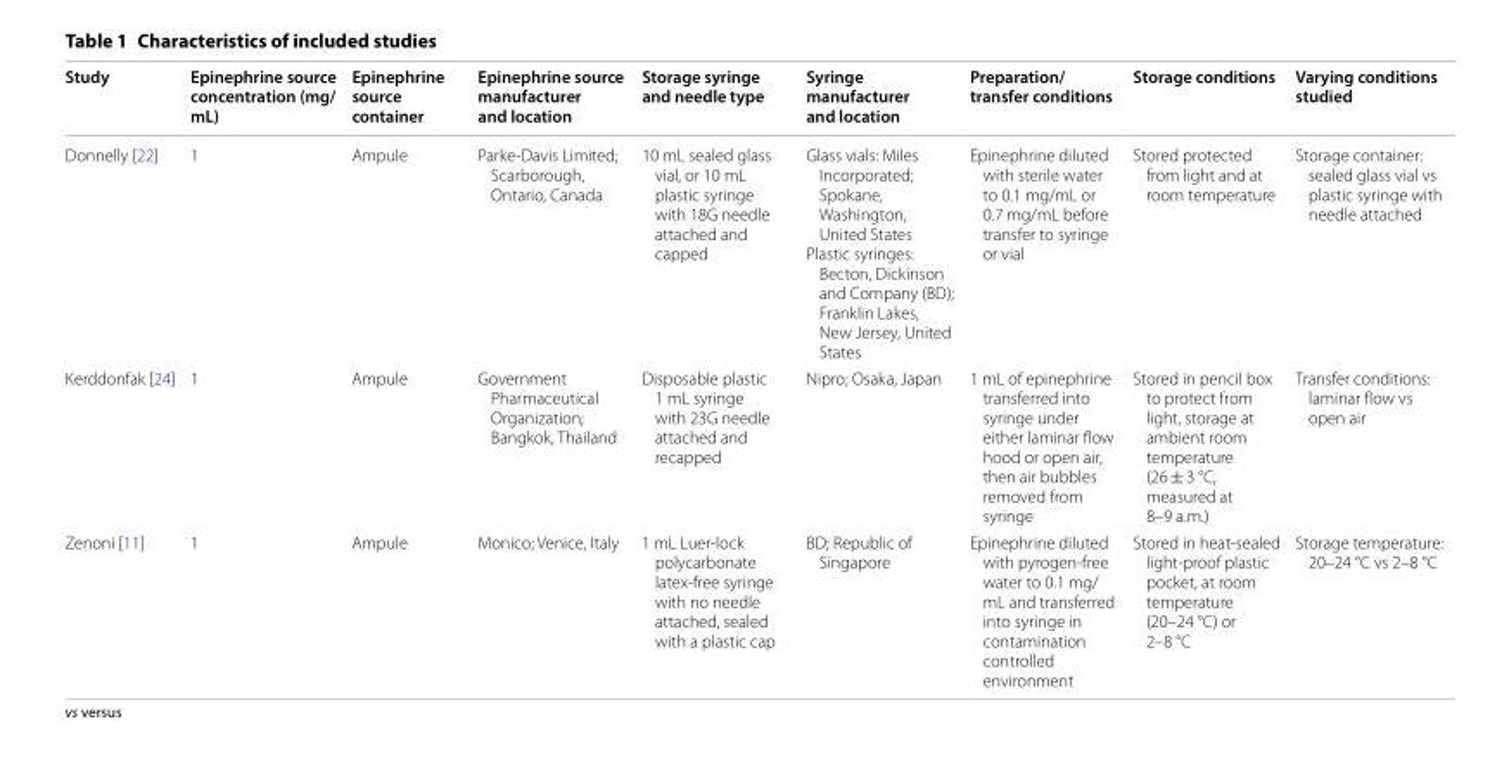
<table><thead><tr><td>Study</td><td>Epinephrine source concentration (mg/ mL)</td><td>Epinephrine source container</td><td>Epinephrine source manufacturer and location</td><td>Storage syringe and needle type</td><td>Syringe manufacturer and location</td><td>Preparation/ transfer conditions</td><td>Storage conditions</td><td>Varying conditions studied</td></tr></thead><tbody><tr><td>Donnelly [22]</td><td>1</td><td>Ampule</td><td>Parke-Davis Limited; Scarborough, Ontario, Canada</td><td>10 mL sealed glass vial, or 10 mL plastic syringe with 18G needle attached and capped</td><td>Glass vials: Miles Incorporated; Spokane, Washington, United States Plastic syringes: Becton, Dickinson and Company (BD); Franklin Lakes, New Jersey, United States</td><td>Epinephrine diluted with sterile water to 0.1 mg/mL or 0.7 mg/mL before transfer to syringe or vial</td><td>Stored protected from light and at room temperature</td><td>Storage container: sealed glass vial vs plastic syringe with needle attached</td></tr><tr><td>Kerddonfak [24]</td><td>1</td><td>Ampule</td><td>Government Pharmaceutical Organization; Bangkok, Thailand</td><td>Disposable plastic 1 mL syringe with 23G needle attached and recapped</td><td>Nipro; Osaka, Japan</td><td>1 mL of epinephrine transferred into syringe under either laminar flow hood or open air, then air bubbles removed from syringe</td><td>Stored in pencil box to protect from light, storage at ambient room temperature (26 ± 3 °C, measured at 8–9 a.m.)</td><td>Transfer conditions: laminar flow vs open air</td></tr><tr><td>Zenoni [11]</td><td>1</td><td>Ampule</td><td>Monico; Venice, Italy</td><td>1 mL Luer-lock polycarbonate latex-free syringe with no needle attached, sealed with a plastic cap</td><td>BD; Republic of Singapore</td><td>Epinephrine diluted with pyrogen-free water to 0.1 mg/ mL and transferred into syringe in contamination controlled environment</td><td>Stored in heat-sealed light-proof plastic pocket, at room temperature (20–24 °C) or 2–8 °C</td><td>Storage temperature: 20–24 °C vs 2–8 °C</td></tr></tbody></table>